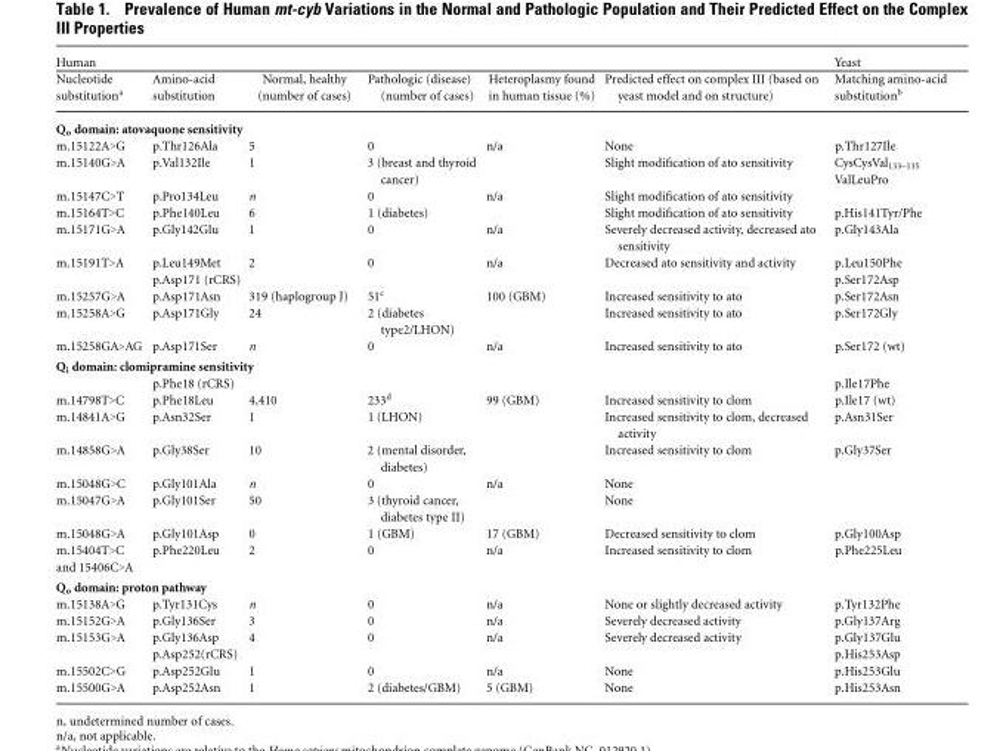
<table><thead><tr><td colspan="6">Human</td><td rowspan="2">Yeast Matching amino-acid substitution<sup>b</sup></td></tr><tr><td>Nucleotide substitution<sup>a</sup></td><td>Amino-acid substitution</td><td>Normal, healthy (number of cases)</td><td>Pathologic (disease) (number of cases)</td><td>Heteroplasmy found in human tissue (%)</td><td>Predicted effect on complex III (based on yeast model and on structure)</td></tr></thead><tbody><tr><td colspan="7">Q<sub>o</sub> domain: atovaquone sensitivity</td></tr><tr><td>m.15122A&gt;G</td><td>p.Thr126Ala</td><td>5</td><td>0</td><td>n/a</td><td>None</td><td>p.Thr127Ile</td></tr><tr><td>m.15140G&gt;A</td><td>p.Val132Ile</td><td>1</td><td>3 (breast and thyroid cancer)</td><td></td><td>Slight modification of ato sensitivity</td><td>CysCysVal<sub>133–135</sub> ValLeuPro</td></tr><tr><td>m.15147C&gt;T</td><td>p.Pro134Leu</td><td>n</td><td>0</td><td>n/a</td><td>Slight modification of ato sensitivity</td><td></td></tr><tr><td>m.15164T&gt;C</td><td>p.Phe140Leu</td><td>6</td><td>1 (diabetes)</td><td></td><td>Slight modification of ato sensitivity</td><td>p.His141Tyr/Phe</td></tr><tr><td>m.15171G&gt;A</td><td>p.Gly142Glu</td><td>1</td><td>0</td><td>n/a</td><td>Severely decreased activity, decreased ato sensitivity</td><td>p.Gly143Ala</td></tr><tr><td rowspan="2">m.15191T&gt;A</td><td>p.Leu149Met</td><td>2</td><td>0</td><td>n/a</td><td>Decreased ato sensitivity and activity</td><td>p.Leu150Phe</td></tr><tr><td>p.Asp171 (rCRS)</td><td></td><td></td><td></td><td></td><td>p.Ser172Asp</td></tr><tr><td>m.15257G&gt;A</td><td>p.Asp171Asn</td><td>319 (haplogroup J)</td><td>51<sup>c</sup></td><td>100 (GBM)</td><td>Increased sensitivity to ato</td><td>p.Ser172Asn</td></tr><tr><td>m.15258A&gt;G</td><td>p.Asp171Gly</td><td>24</td><td>2 (diabetes type2/LHON)</td><td></td><td>Increased sensitivity to ato</td><td>p.Ser172Gly</td></tr><tr><td>m.15258GA&gt;AG</td><td>p.Asp171Ser</td><td>n</td><td>0</td><td>n/a</td><td>Increased sensitivity to ato</td><td>p.Ser172 (wt)</td></tr><tr><td colspan="7">Q<sub>i</sub> domain: clomipramine sensitivity</td></tr><tr><td></td><td>p.Phe18 (rCRS)</td><td></td><td></td><td></td><td></td><td>p.Ile17Phe</td></tr><tr><td>m.14798T&gt;C</td><td>p.Phe18Leu</td><td>4,410</td><td>233<sup>d</sup></td><td>99 (GBM)</td><td>Increased sensitivity to clom</td><td>p.Ile17 (wt)</td></tr><tr><td>m.14841A&gt;G</td><td>p.Asn32Ser</td><td>1</td><td>1 (LHON)</td><td></td><td>Increased sensitivity to clom, decreased activity</td><td>p.Asn31Ser</td></tr><tr><td>m.14858G&gt;A</td><td>p.Gly38Ser</td><td>10</td><td>2 (mental disorder, diabetes)</td><td></td><td>Increased sensitivity to clom</td><td>p.Gly37Ser</td></tr><tr><td>m.15048G&gt;C</td><td>p.Gly101Ala</td><td>n</td><td>0</td><td>n/a</td><td>None</td><td></td></tr><tr><td>m.15047G&gt;A</td><td>p.Gly101Ser</td><td>50</td><td>3 (thyroid cancer, diabetes type II)</td><td></td><td>None</td><td></td></tr><tr><td>m.15048G&gt;A</td><td>p.Gly101Asp</td><td>0</td><td>1 (GBM)</td><td>17 (GBM)</td><td>Decreased sensitivity to clom</td><td>p.Gly100Asp</td></tr><tr><td>m.15404T&gt;C and 15406C&gt;A</td><td>p.Phe220Leu</td><td>2</td><td>0</td><td>n/a</td><td>Increased sensitivity to clom</td><td>p.Phe225Leu</td></tr><tr><td colspan="7">Q<sub>o</sub> domain: proton pathway</td></tr><tr><td>m.15138A&gt;G</td><td>p.Tyr131Cys</td><td>n</td><td>0</td><td>n/a</td><td>None or slightly decreased activity</td><td>p.Tyr132Phe</td></tr><tr><td>m.15152G&gt;A</td><td>p.Gly136Ser</td><td>3</td><td>0</td><td>n/a</td><td>Severely decreased activity</td><td>p.Gly137Arg</td></tr><tr><td rowspan="2">m.15153G&gt;A</td><td>p.Gly136Asp</td><td>4</td><td>0</td><td>n/a</td><td>Severely decreased activity</td><td>p.Gly137Glu</td></tr><tr><td>p.Asp252(rCRS)</td><td></td><td></td><td></td><td></td><td>p.His253Asp</td></tr><tr><td>m.15502C&gt;G</td><td>p.Asp252Glu</td><td>1</td><td>0</td><td>n/a</td><td>None</td><td>p.His253Glu</td></tr><tr><td>m.15500G&gt;A</td><td>p.Asp252Asn</td><td>1</td><td>2 (diabetes/GBM)</td><td>5 (GBM)</td><td>None</td><td>p.His253Asn</td></tr></tbody></table>